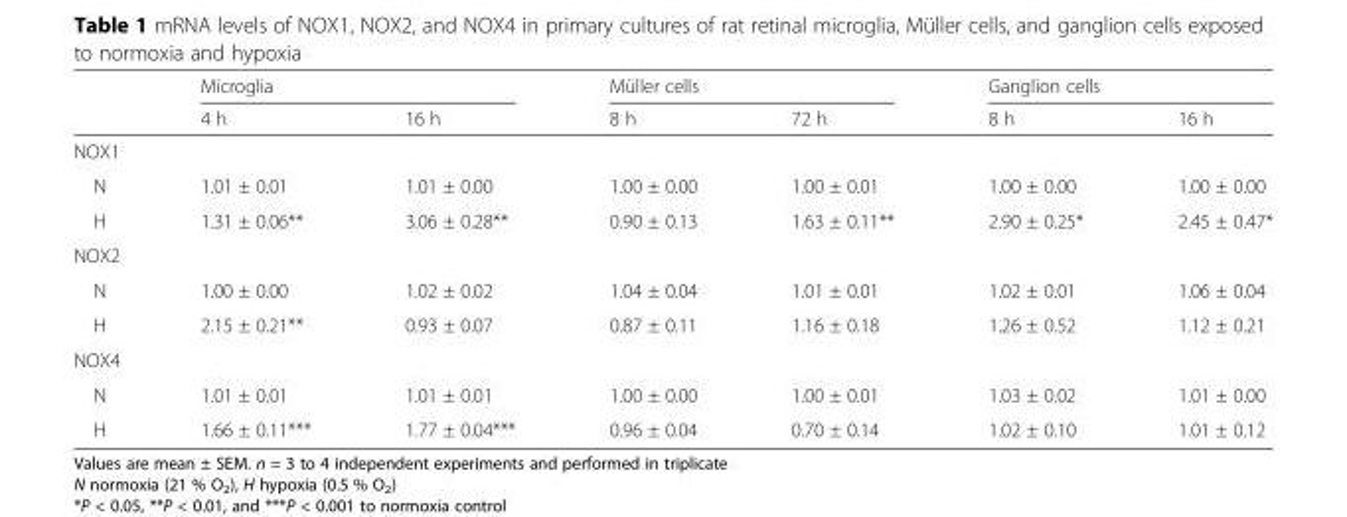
<table><thead><tr><td rowspan="2"></td><td colspan="2">Microglia</td><td colspan="2">Müller cells</td><td colspan="2">Ganglion cells</td></tr><tr><td>4 h</td><td>16 h</td><td>8 h</td><td>72 h</td><td>8 h</td><td>16 h</td></tr></thead><tbody><tr><td colspan="7">NOX1</td></tr><tr><td>N</td><td>1.01 ± 0.01</td><td>1.01 ± 0.00</td><td>1.00 ± 0.00</td><td>1.00 ± 0.01</td><td>1.00 ± 0.00</td><td>1.00 ± 0.00</td></tr><tr><td>H</td><td>1.31 ± 0.06**</td><td>3.06 ± 0.28**</td><td>0.90 ± 0.13</td><td>1.63 ± 0.11**</td><td>2.90 ± 0.25*</td><td>2.45 ± 0.47*</td></tr><tr><td colspan="7">NOX2</td></tr><tr><td>N</td><td>1.00 ± 0.00</td><td>1.02 ± 0.02</td><td>1.04 ± 0.04</td><td>1.01 ± 0.01</td><td>1.02 ± 0.01</td><td>1.06 ± 0.04</td></tr><tr><td>H</td><td>2.15 ± 0.21**</td><td>0.93 ± 0.07</td><td>0.87 ± 0.11</td><td>1.16 ± 0.18</td><td>1.26 ± 0.52</td><td>1.12 ± 0.21</td></tr><tr><td colspan="7">NOX4</td></tr><tr><td>N</td><td>1.01 ± 0.01</td><td>1.01 ± 0.01</td><td>1.00 ± 0.00</td><td>1.00 ± 0.01</td><td>1.03 ± 0.02</td><td>1.01 ± 0.00</td></tr><tr><td>H</td><td>1.66 ± 0.11***</td><td>1.77 ± 0.04***</td><td>0.96 ± 0.04</td><td>0.70 ± 0.14</td><td>1.02 ± 0.10</td><td>1.01 ± 0.12</td></tr></tbody></table>